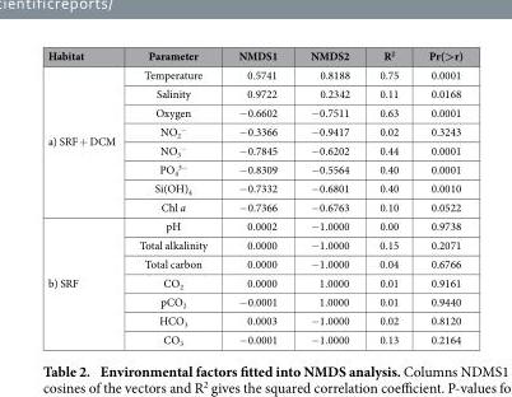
<table><thead><tr><td>Habitat</td><td>Parameter</td><td>NMDS1</td><td>NMDS2</td><td>R<sup>2</sup></td><td>Pr(&gt;r)</td></tr></thead><tbody><tr><td rowspan="8">a) SRF + DCM</td><td>Temperature</td><td>0.5741</td><td>0.8188</td><td>0.75</td><td>0.0001</td></tr><tr><td>Salinity</td><td>0.9722</td><td>0.2342</td><td>0.11</td><td>0.0168</td></tr><tr><td>Oxygen</td><td>− 0.6602</td><td>− 0.7511</td><td>0.63</td><td>0.0001</td></tr><tr><td>NO<sub>2</sub> <sup>−</sup></td><td>− 0.3366</td><td>− 0.9417</td><td>0.02</td><td>0.3243</td></tr><tr><td>NO<sub>3</sub> <sup>−</sup></td><td>− 0.7845</td><td>− 0.6202</td><td>0.44</td><td>0.0001</td></tr><tr><td>PO<sub>4</sub> <sup>3−</sup></td><td>− 0.8309</td><td>− 0.5564</td><td>0.40</td><td>0.0001</td></tr><tr><td>Si(OH)<sub>4</sub></td><td>− 0.7332</td><td>− 0.6801</td><td>0.40</td><td>0.0010</td></tr><tr><td>Chl a</td><td>− 0.7366</td><td>− 0.6763</td><td>0.10</td><td>0.0522</td></tr><tr><td rowspan="7">b) SRF</td><td>pH</td><td>0.0002</td><td>− 1.0000</td><td>0.00</td><td>0.9738</td></tr><tr><td>Total alkalinity</td><td>0.0000</td><td>− 1.0000</td><td>0.15</td><td>0.2071</td></tr><tr><td>Total carbon</td><td>0.0000</td><td>− 1.0000</td><td>0.04</td><td>0.6766</td></tr><tr><td>CO<sub>2</sub></td><td>0.0000</td><td>1.0000</td><td>0.01</td><td>0.9161</td></tr><tr><td>pCO<sub>2</sub></td><td>− 0.0001</td><td>1.0000</td><td>0.01</td><td>0.9440</td></tr><tr><td>HCO<sub>3</sub></td><td>0.0003</td><td>− 1.0000</td><td>0.02</td><td>0.8120</td></tr><tr><td>CO<sub>3</sub></td><td>− 0.0001</td><td>− 1.0000</td><td>0.13</td><td>0.2164</td></tr></tbody></table>